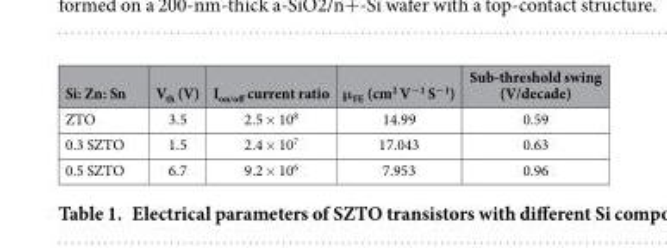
<table><thead><tr><td>Si: Zn: Sn</td><td>V<sub>th</sub> (V)</td><td>I<sub>on/off</sub> current ratio</td><td>μ<sub>FE</sub> (cm<sup>2</sup> V<sup>−1</sup> S<sup>−1</sup>)</td><td>Sub-threshold swing (V/decade)</td></tr></thead><tbody><tr><td>ZTO</td><td>3.5</td><td>2.5 × 10<sup>8</sup></td><td>14.99</td><td>0.59</td></tr><tr><td>0.3 SZTO</td><td>1.5</td><td>2.4 × 10<sup>7</sup></td><td>17.043</td><td>0.63</td></tr><tr><td>0.5 SZTO</td><td>6.7</td><td>9.2 × 10<sup>6</sup></td><td>7.953</td><td>0.96</td></tr></tbody></table>